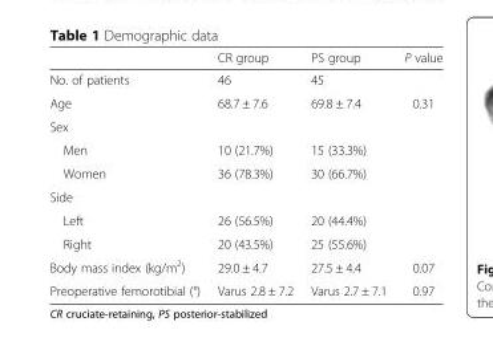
<table><thead><tr><td></td><td>CR group</td><td>PS group</td><td>P value</td></tr></thead><tbody><tr><td>No. of patients</td><td>46</td><td>45</td><td></td></tr><tr><td>Age</td><td>68.7 ± 7.6</td><td>69.8 ± 7.4</td><td>0.31</td></tr><tr><td colspan="4">Sex</td></tr><tr><td>Men</td><td>10 (21.7%)</td><td>15 (33.3%)</td><td></td></tr><tr><td>Women</td><td>36 (78.3%)</td><td>30 (66.7%)</td><td></td></tr><tr><td colspan="4">Side</td></tr><tr><td>Left</td><td>26 (56.5%)</td><td>20 (44.4%)</td><td></td></tr><tr><td>Right</td><td>20 (43.5%)</td><td>25 (55.6%)</td><td></td></tr><tr><td>Body mass index (kg/m<sup>2</sup>)</td><td>29.0 ± 4.7</td><td>27.5 ± 4.4</td><td>0.07</td></tr><tr><td>Preoperative femorotibial (°)</td><td>Varus 2.8 ± 7.2</td><td>Varus 2.7 ± 7.1</td><td>0.97</td></tr></tbody></table>